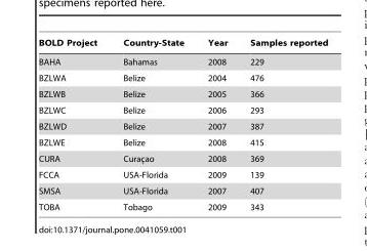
<table><thead><tr><td>BOLD Project</td><td>Country-State</td><td>Year</td><td>Samples reported</td></tr></thead><tbody><tr><td>BAHA</td><td>Bahamas</td><td>2008</td><td>229</td></tr><tr><td>BZLWA</td><td>Belize</td><td>2004</td><td>476</td></tr><tr><td>BZLWB</td><td>Belize</td><td>2005</td><td>366</td></tr><tr><td>BZLWC</td><td>Belize</td><td>2006</td><td>293</td></tr><tr><td>BZLWD</td><td>Belize</td><td>2007</td><td>387</td></tr><tr><td>BZLWE</td><td>Belize</td><td>2008</td><td>415</td></tr><tr><td>CURA</td><td>Curac¸ao</td><td>2008</td><td>369</td></tr><tr><td>FCCA</td><td>USA-Florida</td><td>2009</td><td>139</td></tr><tr><td>SMSA</td><td>USA-Florida</td><td>2007</td><td>407</td></tr><tr><td>TOBA</td><td>Tobago</td><td>2009</td><td>343</td></tr></tbody></table>